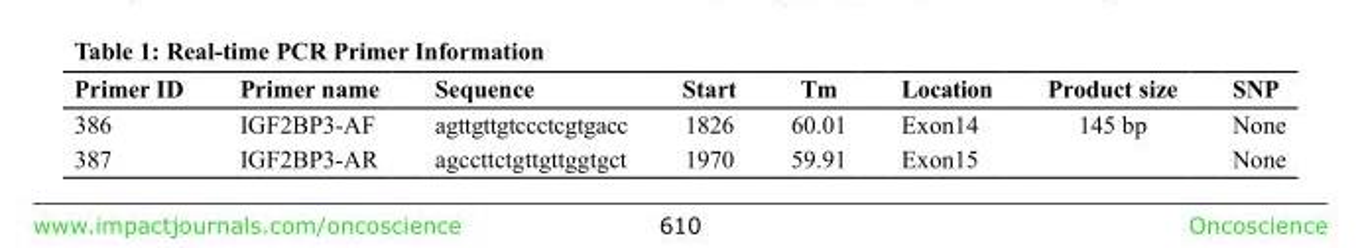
<table><thead><tr><td>Primer ID</td><td>Primer name</td><td>Sequence</td><td>Start</td><td>Tm</td><td>Location</td><td>Product size</td><td>SNP</td></tr></thead><tbody><tr><td>386</td><td>IGF2BP3-AF</td><td>agttgttgtccctcgtgacc</td><td>1826</td><td>60.01</td><td>Exon14</td><td>145 bp</td><td>None</td></tr><tr><td>387</td><td>IGF2BP3-AR</td><td>agccttctgttgttggtgct</td><td>1970</td><td>59.91</td><td>Exon15</td><td></td><td>None</td></tr></tbody></table>